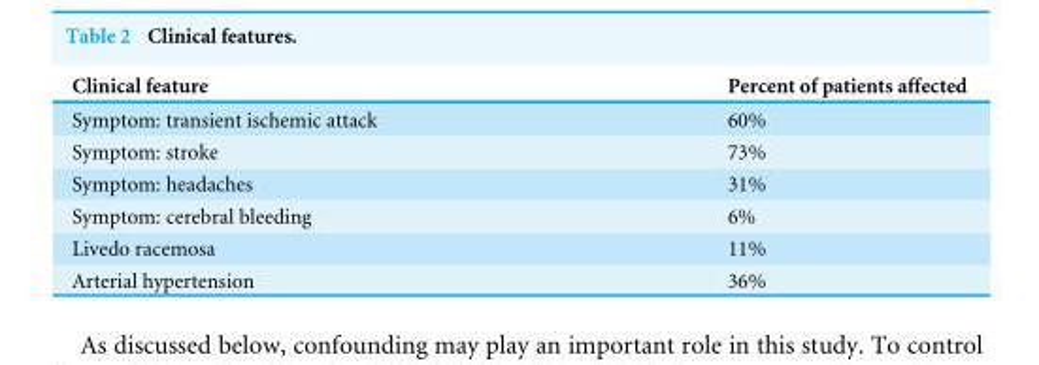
<table><thead><tr><td>Clinical feature</td><td>Percent of patients affected</td></tr></thead><tbody><tr><td>Symptom: transient ischemic attack</td><td>60%</td></tr><tr><td>Symptom: stroke</td><td>73%</td></tr><tr><td>Symptom: headaches</td><td>31%</td></tr><tr><td>Symptom: cerebral bleeding</td><td>6%</td></tr><tr><td>Livedo racemosa</td><td>11%</td></tr><tr><td>Arterial hypertension</td><td>36%</td></tr></tbody></table>